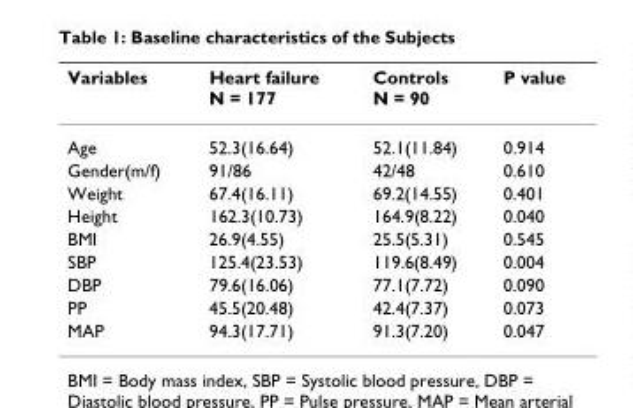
<table><thead><tr><td>Variables</td><td>Heart failure N = 177</td><td>Controls N = 90</td><td>P value</td></tr></thead><tbody><tr><td>Age</td><td>52.3(16.64)</td><td>52.1(11.84)</td><td>0.914</td></tr><tr><td>Gender(m/f)</td><td>91/86</td><td>42/48</td><td>0.610</td></tr><tr><td>Weight</td><td>67.4(16.11)</td><td>69.2(14.55)</td><td>0.401</td></tr><tr><td>Height</td><td>162.3(10.73)</td><td>164.9(8.22)</td><td>0.040</td></tr><tr><td>BMI</td><td>26.9(4.55)</td><td>25.5(5.31)</td><td>0.545</td></tr><tr><td>SBP</td><td>125.4(23.53)</td><td>119.6(8.49)</td><td>0.004</td></tr><tr><td>DBP</td><td>79.6(16.06)</td><td>77.1(7.72)</td><td>0.090</td></tr><tr><td>PP</td><td>45.5(20.48)</td><td>42.4(7.37)</td><td>0.073</td></tr><tr><td>MAP</td><td>94.3(17.71)</td><td>91.3(7.20)</td><td>0.047</td></tr></tbody></table>